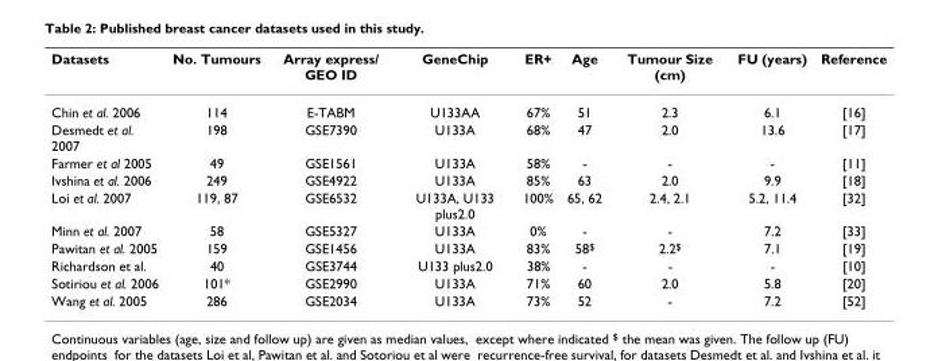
<table><thead><tr><td>Datasets</td><td>No. Tumours</td><td>Array express/ GEO ID</td><td>GeneChip</td><td>ER+</td><td>Age</td><td>Tumour Size (cm)</td><td>FU (years)</td><td>Reference</td></tr></thead><tbody><tr><td>Chin et al. 2006</td><td>114</td><td>E-TABM</td><td>U133AA</td><td>67%</td><td>51</td><td>2.3</td><td>6.1</td><td>[16]</td></tr><tr><td>Desmedt et al. 2007</td><td>198</td><td>GSE7390</td><td>U133A</td><td>68%</td><td>47</td><td>2.0</td><td>13.6</td><td>[17]</td></tr><tr><td>Farmer et al 2005</td><td>49</td><td>GSE1561</td><td>U133A</td><td>58%</td><td>-</td><td>-</td><td>-</td><td>[11]</td></tr><tr><td>Ivshina et al. 2006</td><td>249</td><td>GSE4922</td><td>U133A</td><td>85%</td><td>63</td><td>2.0</td><td>9.9</td><td>[18]</td></tr><tr><td>Loi et al. 2007</td><td>119, 87</td><td>GSE6532</td><td>U133A, U133 plus2.0</td><td>100%</td><td>65, 62</td><td>2.4, 2.1</td><td>5.2, 11.4</td><td>[32]</td></tr><tr><td>Minn et al. 2007</td><td>58</td><td>GSE5327</td><td>U133A</td><td>0%</td><td>-</td><td>-</td><td>7.2</td><td>[33]</td></tr><tr><td>Pawitan et al. 2005</td><td>159</td><td>GSE1456</td><td>U133A</td><td>83%</td><td>58<sup>$</sup></td><td>2.2<sup>$</sup></td><td>7.1</td><td>[19]</td></tr><tr><td>Richardson et al.</td><td>40</td><td>GSE3744</td><td>U133 plus2.0</td><td>38%</td><td>-</td><td>-</td><td>-</td><td>[10]</td></tr><tr><td>Sotiriou et al. 2006</td><td>101*</td><td>GSE2990</td><td>U133A</td><td>71%</td><td>60</td><td>2.0</td><td>5.8</td><td>[20]</td></tr><tr><td>Wang et al. 2005</td><td>286</td><td>GSE2034</td><td>U133A</td><td>73%</td><td>52</td><td>-</td><td>7.2</td><td>[52]</td></tr></tbody></table>